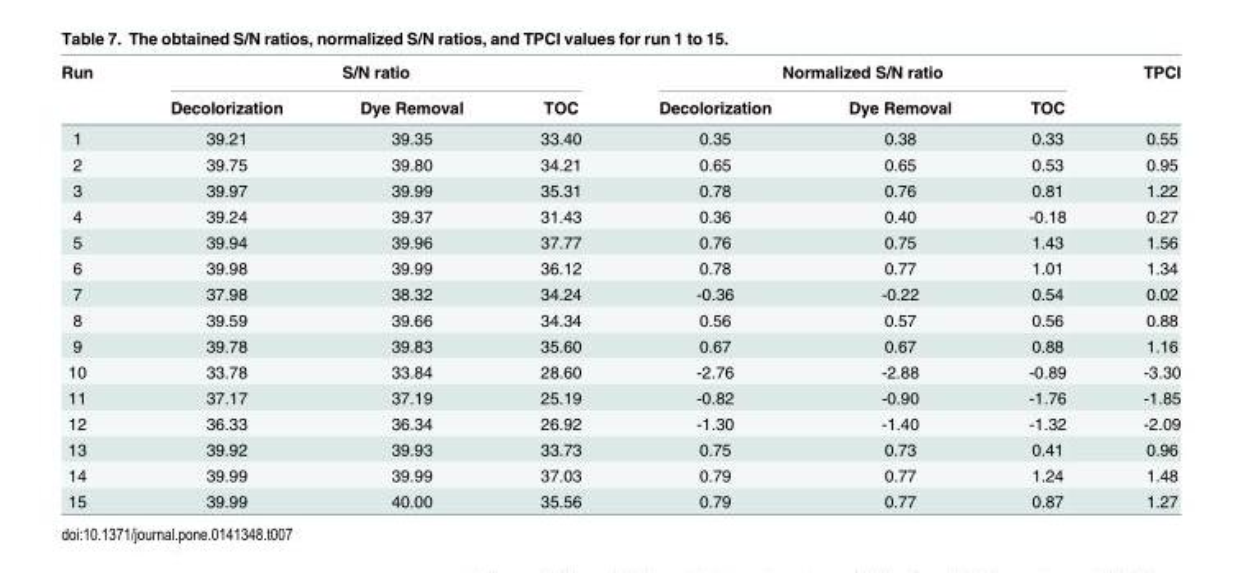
<table><thead><tr><td rowspan="2">Run</td><td colspan="3">S/N ratio</td><td colspan="3">Normalized S/N ratio</td><td rowspan="2">TPCI</td></tr><tr><td>Decolorization</td><td>Dye Removal</td><td>TOC</td><td>Decolorization</td><td>Dye Removal</td><td>TOC</td></tr></thead><tbody><tr><td>1</td><td>39.21</td><td>39.35</td><td>33.40</td><td>0.35</td><td>0.38</td><td>0.33</td><td>0.55</td></tr><tr><td>2</td><td>39.75</td><td>39.80</td><td>34.21</td><td>0.65</td><td>0.65</td><td>0.53</td><td>0.95</td></tr><tr><td>3</td><td>39.97</td><td>39.99</td><td>35.31</td><td>0.78</td><td>0.76</td><td>0.81</td><td>1.22</td></tr><tr><td>4</td><td>39.24</td><td>39.37</td><td>31.43</td><td>0.36</td><td>0.40</td><td>-0.18</td><td>0.27</td></tr><tr><td>5</td><td>39.94</td><td>39.96</td><td>37.77</td><td>0.76</td><td>0.75</td><td>1.43</td><td>1.56</td></tr><tr><td>6</td><td>39.98</td><td>39.99</td><td>36.12</td><td>0.78</td><td>0.77</td><td>1.01</td><td>1.34</td></tr><tr><td>7</td><td>37.98</td><td>38.32</td><td>34.24</td><td>-0.36</td><td>-0.22</td><td>0.54</td><td>0.02</td></tr><tr><td>8</td><td>39.59</td><td>39.66</td><td>34.34</td><td>0.56</td><td>0.57</td><td>0.56</td><td>0.88</td></tr><tr><td>9</td><td>39.78</td><td>39.83</td><td>35.60</td><td>0.67</td><td>0.67</td><td>0.88</td><td>1.16</td></tr><tr><td>10</td><td>33.78</td><td>33.84</td><td>28.60</td><td>-2.76</td><td>-2.88</td><td>-0.89</td><td>-3.30</td></tr><tr><td>11</td><td>37.17</td><td>37.19</td><td>25.19</td><td>-0.82</td><td>-0.90</td><td>-1.76</td><td>-1.85</td></tr><tr><td>12</td><td>36.33</td><td>36.34</td><td>26.92</td><td>-1.30</td><td>-1.40</td><td>-1.32</td><td>-2.09</td></tr><tr><td>13</td><td>39.92</td><td>39.93</td><td>33.73</td><td>0.75</td><td>0.73</td><td>0.41</td><td>0.96</td></tr><tr><td>14</td><td>39.99</td><td>39.99</td><td>37.03</td><td>0.79</td><td>0.77</td><td>1.24</td><td>1.48</td></tr><tr><td>15</td><td>39.99</td><td>40.00</td><td>35.56</td><td>0.79</td><td>0.77</td><td>0.87</td><td>1.27</td></tr></tbody></table>